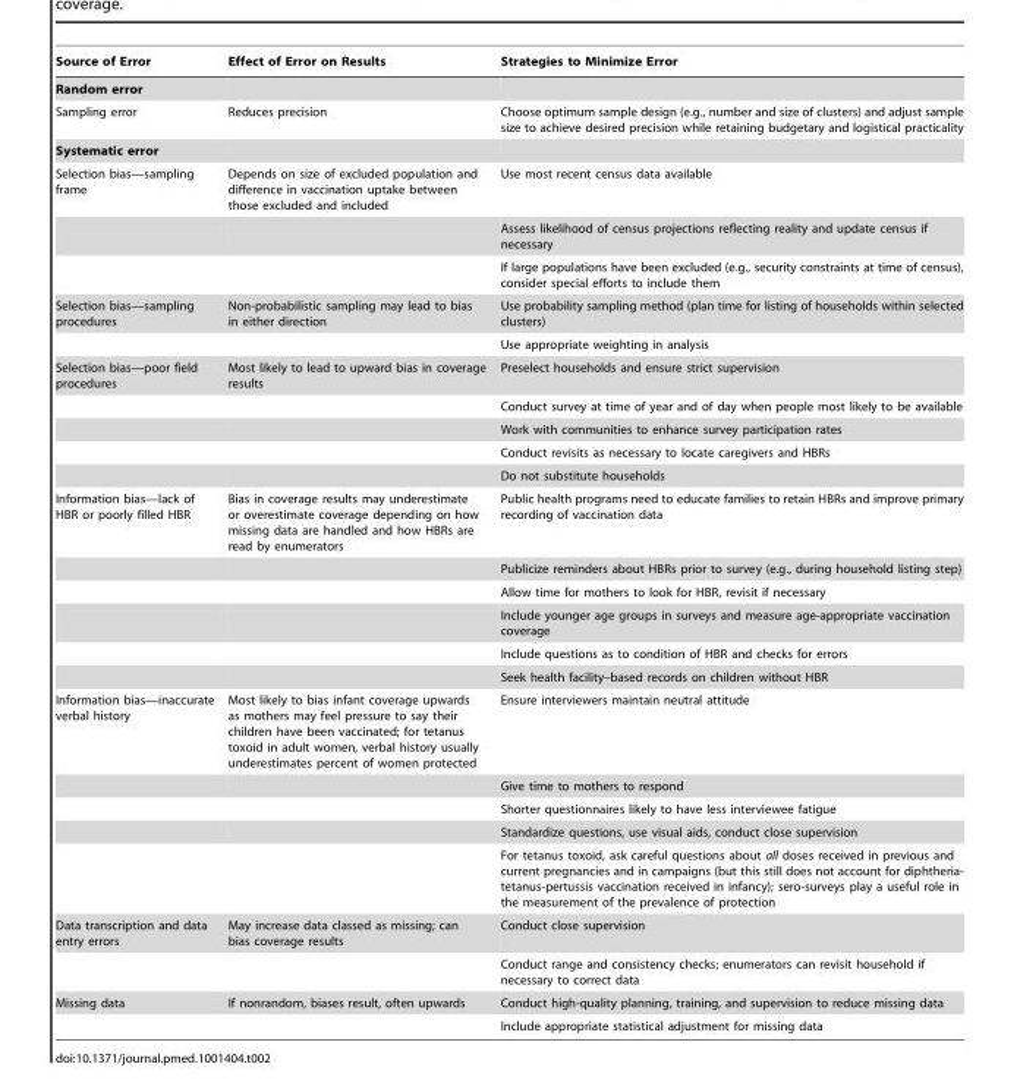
<table><thead><tr><td>Source of Error</td><td>Effect of Error on Results</td><td>Strategies to Minimize Error</td></tr></thead><tbody><tr><td colspan="3">Random error</td></tr><tr><td>Sampling error</td><td>Reduces precision</td><td>Choose optimum sample design (e.g., number and size of clusters) and adjust sample size to achieve desired precision while retaining budgetary and logistical practicality</td></tr><tr><td colspan="3">Systematic error</td></tr><tr><td rowspan="3">Selection bias—sampling frame</td><td>Depends on size of excluded population and difference in vaccination uptake between those excluded and included</td><td>Use most recent census data available</td></tr><tr><td></td><td>Assess likelihood of census projections reflecting reality and update census if necessary</td></tr><tr><td></td><td>If large populations have been excluded (e.g., security constraints at time of census), consider special efforts to include them</td></tr><tr><td rowspan="2">Selection bias—sampling procedures</td><td>Non-probabilistic sampling may lead to bias in either direction</td><td>Use probability sampling method (plan time for listing of households within selected clusters)</td></tr><tr><td></td><td>Use appropriate weighting in analysis</td></tr><tr><td rowspan="5">Selection bias—poor field procedures</td><td>Most likely to lead to upward bias in coverage results</td><td>Preselect households and ensure strict supervision</td></tr><tr><td></td><td>Conduct survey at time of year and of day when people most likely to be available</td></tr><tr><td></td><td>Work with communities to enhance survey participation rates</td></tr><tr><td></td><td>Conduct revisits as necessary to locate caregivers and HBRs</td></tr><tr><td></td><td>Do not substitute households</td></tr><tr><td rowspan="6">Information bias—lack of HBR or poorly filled HBR</td><td>Bias in coverage results may underestimate or overestimate coverage depending on how missing data are handled and how HBRs are read by enumerators</td><td>Public health programs need to educate families to retain HBRs and improve primary recording of vaccination data</td></tr><tr><td></td><td>Publicize reminders about HBRs prior to survey (e.g., during household listing step)</td></tr><tr><td></td><td>Allow time for mothers to look for HBR, revisit if necessary</td></tr><tr><td></td><td>Include younger age groups in surveys and measure age-appropriate vaccination coverage</td></tr><tr><td></td><td>Include questions as to condition of HBR and checks for errors</td></tr><tr><td></td><td>Seek health facility–based records on children without HBR</td></tr><tr><td rowspan="5">Information bias—inaccurate verbal history</td><td>Most likely to bias infant coverage upwards as mothers may feel pressure to say their children have been vaccinated; for tetanus toxoid in adult women, verbal history usually underestimates percent of women protected</td><td>Ensure interviewers maintain neutral attitude</td></tr><tr><td></td><td>Give time to mothers to respond</td></tr><tr><td></td><td>Shorter questionnaires likely to have less interviewee fatigue</td></tr><tr><td></td><td>Standardize questions, use visual aids, conduct close supervision</td></tr><tr><td></td><td>For tetanus toxoid, ask careful questions about all doses received in previous and current pregnancies and in campaigns (but this still does not account for diphtheria- tetanus-pertussis vaccination received in infancy); sero-surveys play a useful role in the measurement of the prevalence of protection</td></tr><tr><td rowspan="2">Data transcription and data entry errors</td><td>May increase data classed as missing; can bias coverage results</td><td>Conduct close supervision</td></tr><tr><td></td><td>Conduct range and consistency checks; enumerators can revisit household if necessary to correct data</td></tr><tr><td rowspan="2">Missing data</td><td>If nonrandom, biases result, often upwards</td><td>Conduct high-quality planning, training, and supervision to reduce missing data</td></tr><tr><td></td><td>Include appropriate statistical adjustment for missing data</td></tr></tbody></table>